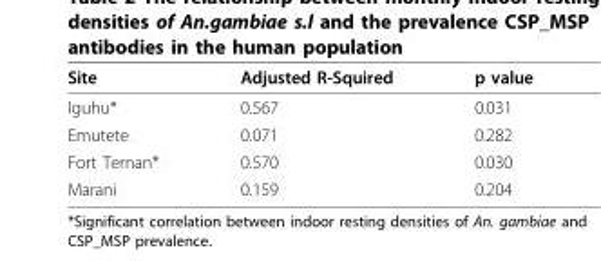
<table><thead><tr><td>Site</td><td>Adjusted R-Squired</td><td>p value</td></tr></thead><tbody><tr><td>Iguhu*</td><td>0.567</td><td>0.031</td></tr><tr><td>Emutete</td><td>0.071</td><td>0.282</td></tr><tr><td>Fort Ternan*</td><td>0.570</td><td>0.030</td></tr><tr><td>Marani</td><td>0.159</td><td>0.204</td></tr></tbody></table>